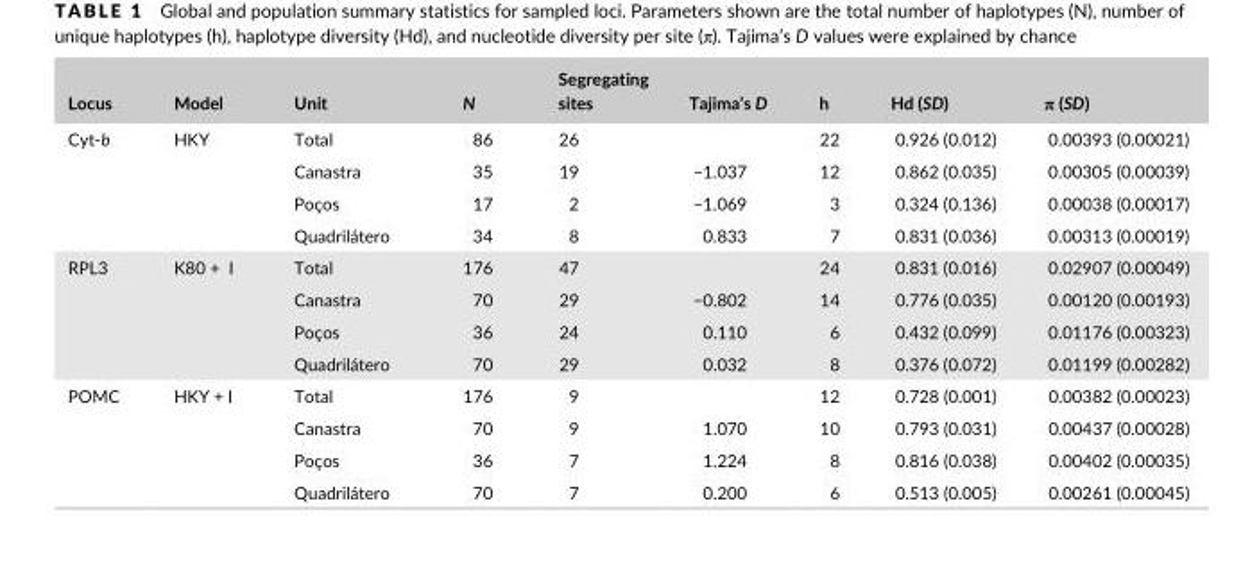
<table><thead><tr><td>Locus</td><td>Model</td><td>Unit</td><td>N</td><td>Segregating sites</td><td>Tajima’s D</td><td>h</td><td>Hd (SD)</td><td>π (SD)</td></tr></thead><tbody><tr><td rowspan="4">Cyt- b</td><td rowspan="4">HKY</td><td>Total</td><td>86</td><td>26</td><td></td><td>22</td><td>0.926 (0.012)</td><td>0.00393 (0.00021)</td></tr><tr><td>Canastra</td><td>35</td><td>19</td><td>−1.037</td><td>12</td><td>0.862 (0.035)</td><td>0.00305 (0.00039)</td></tr><tr><td>Poços</td><td>17</td><td>2</td><td>−1.069</td><td>3</td><td>0.324 (0.136)</td><td>0.00038 (0.00017)</td></tr><tr><td>Quadrilátero</td><td>34</td><td>8</td><td>0.833</td><td>7</td><td>0.831 (0.036)</td><td>0.00313 (0.00019)</td></tr><tr><td rowspan="4">RPL3</td><td rowspan="4">K80 + I</td><td>Total</td><td>176</td><td>47</td><td></td><td>24</td><td>0.831 (0.016)</td><td>0.02907 (0.00049)</td></tr><tr><td>Canastra</td><td>70</td><td>29</td><td>−0.802</td><td>14</td><td>0.776 (0.035)</td><td>0.00120 (0.00193)</td></tr><tr><td>Poços</td><td>36</td><td>24</td><td>0.110</td><td>6</td><td>0.432 (0.099)</td><td>0.01176 (0.00323)</td></tr><tr><td>Quadrilátero</td><td>70</td><td>29</td><td>0.032</td><td>8</td><td>0.376 (0.072)</td><td>0.01199 (0.00282)</td></tr><tr><td rowspan="4">POMC</td><td rowspan="4">HKY + I</td><td>Total</td><td>176</td><td>9</td><td></td><td>12</td><td>0.728 (0.001)</td><td>0.00382 (0.00023)</td></tr><tr><td>Canastra</td><td>70</td><td>9</td><td>1.070</td><td>10</td><td>0.793 (0.031)</td><td>0.00437 (0.00028)</td></tr><tr><td>Poços</td><td>36</td><td>7</td><td>1.224</td><td>8</td><td>0.816 (0.038)</td><td>0.00402 (0.00035)</td></tr><tr><td>Quadrilátero</td><td>70</td><td>7</td><td>0.200</td><td>6</td><td>0.513 (0.005)</td><td>0.00261 (0.00045)</td></tr></tbody></table>